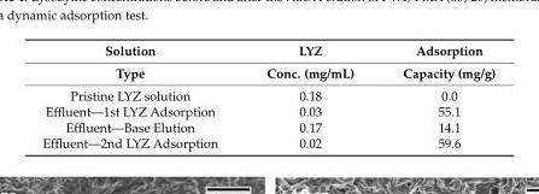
<table><thead><tr><td rowspan="2">Solution Type</td><td rowspan="2">LYZ Conc. (mg/mL)</td><td rowspan="2">Adsorption Capacity (mg/g)</td></tr><tr></tr></thead><tbody><tr><td>Pristine LYZ solution</td><td>0.18</td><td>0.0</td></tr><tr><td>Effluent—1st LYZ Adsorption</td><td>0.03</td><td>55.1</td></tr><tr><td>Effluent—Base Elution</td><td>0.17</td><td>14.1</td></tr><tr><td>Effluent—2nd LYZ Adsorption</td><td>0.02</td><td>59.6</td></tr></tbody></table>